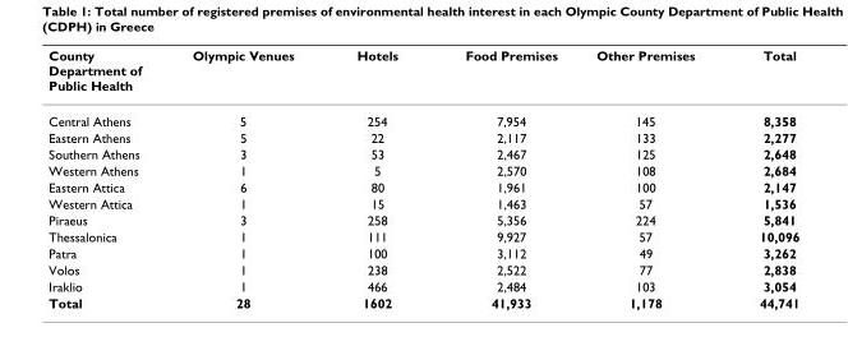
<table><thead><tr><td>County Department of Public Health</td><td>Olympic Venues</td><td>Hotels</td><td>Food Premises</td><td>Other Premises</td><td>Total</td></tr></thead><tbody><tr><td>Central Athens</td><td>5</td><td>254</td><td>7,954</td><td>145</td><td>8,358</td></tr><tr><td>Eastern Athens</td><td>5</td><td>22</td><td>2,117</td><td>133</td><td>2,277</td></tr><tr><td>Southern Athens</td><td>3</td><td>53</td><td>2,467</td><td>125</td><td>2,648</td></tr><tr><td>Western Athens</td><td>1</td><td>5</td><td>2,570</td><td>108</td><td>2,684</td></tr><tr><td>Eastern Attica</td><td>6</td><td>80</td><td>1,961</td><td>100</td><td>2,147</td></tr><tr><td>Western Attica</td><td>1</td><td>15</td><td>1,463</td><td>57</td><td>1,536</td></tr><tr><td>Piraeus</td><td>3</td><td>258</td><td>5,356</td><td>224</td><td>5,841</td></tr><tr><td>Thessalonica</td><td>1</td><td>111</td><td>9,927</td><td>57</td><td>10,096</td></tr><tr><td>Patra</td><td>1</td><td>100</td><td>3,112</td><td>49</td><td>3,262</td></tr><tr><td>Volos</td><td>1</td><td>238</td><td>2,522</td><td>77</td><td>2,838</td></tr><tr><td>Iraklio</td><td>1</td><td>466</td><td>2,484</td><td>103</td><td>3,054</td></tr><tr><td>Total</td><td>28</td><td>1602</td><td>41,933</td><td>1,178</td><td>44,741</td></tr></tbody></table>